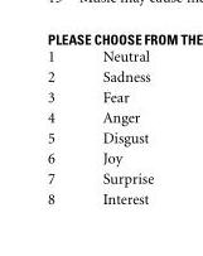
<table><tbody><tr><td>1</td><td>Neutral</td></tr><tr><td>2</td><td>Sadness</td></tr><tr><td>3</td><td>Fear</td></tr><tr><td>4</td><td>Anger</td></tr><tr><td>5</td><td>Disgust</td></tr><tr><td>6</td><td>Joy</td></tr><tr><td>7</td><td>Surprise</td></tr><tr><td>8</td><td>Interest</td></tr></tbody></table>